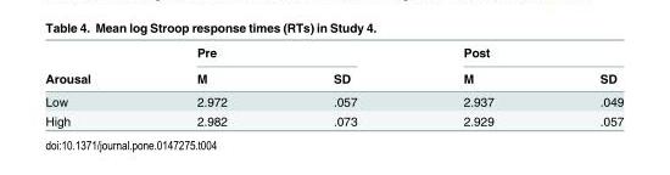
<table><thead><tr><td rowspan="2">Arousal</td><td colspan="2">Pre</td><td colspan="2">Post</td></tr><tr><td>M</td><td>SD</td><td>M</td><td>SD</td></tr></thead><tbody><tr><td>Low</td><td>2.972</td><td>.057</td><td>2.937</td><td>.049</td></tr><tr><td>High</td><td>2.982</td><td>.073</td><td>2.929</td><td>.057</td></tr></tbody></table>